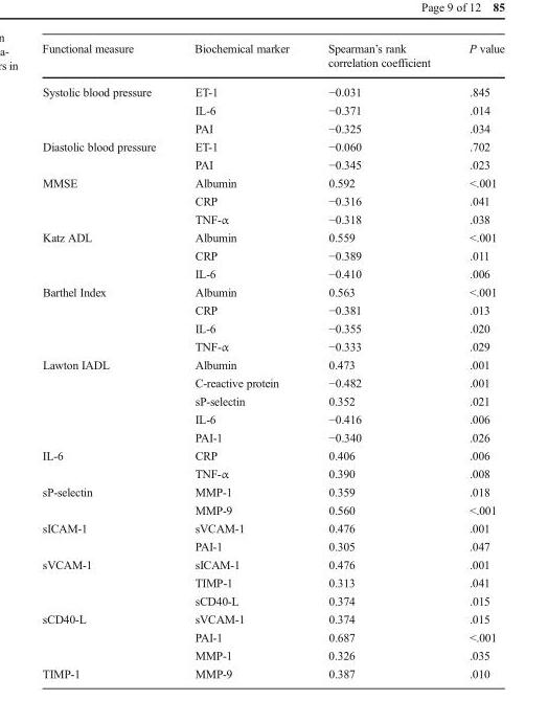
<table><thead><tr><td>Functional measure</td><td>Biochemical marker</td><td>Spearman’s rank correlation coefficient</td><td>P value</td></tr></thead><tbody><tr><td rowspan="3">Systolic blood pressure</td><td>ET-1</td><td>−0.031</td><td>.845</td></tr><tr><td>IL-6</td><td>−0.371</td><td>.014</td></tr><tr><td>PAI</td><td>−0.325</td><td>.034</td></tr><tr><td rowspan="2">Diastolic blood pressure</td><td>ET-1</td><td>−0.060</td><td>.702</td></tr><tr><td>PAI</td><td>−0.345</td><td>.023</td></tr><tr><td rowspan="3">MMSE</td><td>Albumin</td><td>0.592</td><td>&lt;.001</td></tr><tr><td>CRP</td><td>−0.316</td><td>.041</td></tr><tr><td>TNF-α</td><td>−0.318</td><td>.038</td></tr><tr><td rowspan="3">Katz ADL</td><td>Albumin</td><td>0.559</td><td>&lt;.001</td></tr><tr><td>CRP</td><td>−0.389</td><td>.011</td></tr><tr><td>IL-6</td><td>−0.410</td><td>.006</td></tr><tr><td rowspan="4">Barthel Index</td><td>Albumin</td><td>0.563</td><td>&lt;.001</td></tr><tr><td>CRP</td><td>−0.381</td><td>.013</td></tr><tr><td>IL-6</td><td>−0.355</td><td>.020</td></tr><tr><td>TNF-α</td><td>−0.333</td><td>.029</td></tr><tr><td rowspan="5">Lawton IADL</td><td>Albumin</td><td>0.473</td><td>.001</td></tr><tr><td>C-reactive protein</td><td>−0.482</td><td>.001</td></tr><tr><td>sP-selectin</td><td>0.352</td><td>.021</td></tr><tr><td>IL-6</td><td>−0.416</td><td>.006</td></tr><tr><td>PAI-1</td><td>−0.340</td><td>.026</td></tr><tr><td rowspan="2">IL-6</td><td>CRP</td><td>0.406</td><td>.006</td></tr><tr><td>TNF-α</td><td>0.390</td><td>.008</td></tr><tr><td rowspan="2">sP-selectin</td><td>MMP-1</td><td>0.359</td><td>.018</td></tr><tr><td>MMP-9</td><td>0.560</td><td>&lt;.001</td></tr><tr><td rowspan="2">sICAM-1</td><td>sVCAM-1</td><td>0.476</td><td>.001</td></tr><tr><td>PAI-1</td><td>0.305</td><td>.047</td></tr><tr><td rowspan="3">sVCAM-1</td><td>sICAM-1</td><td>0.476</td><td>.001</td></tr><tr><td>TIMP-1</td><td>0.313</td><td>.041</td></tr><tr><td>sCD40-L</td><td>0.374</td><td>.015</td></tr><tr><td rowspan="3">sCD40-L</td><td>sVCAM-1</td><td>0.374</td><td>.015</td></tr><tr><td>PAI-1</td><td>0.687</td><td>&lt;.001</td></tr><tr><td>MMP-1</td><td>0.326</td><td>.035</td></tr><tr><td>TIMP-1</td><td>MMP-9</td><td>0.387</td><td>.010</td></tr></tbody></table>